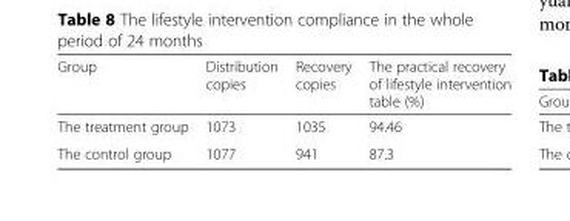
<table><thead><tr><td>Group</td><td>Distribution copies</td><td>Recovery copies</td><td>The practical recovery of lifestyle intervention table (%)</td></tr></thead><tbody><tr><td>The treatment group</td><td>1073</td><td>1035</td><td>94.46</td></tr><tr><td>The control group</td><td>1077</td><td>941</td><td>87.3</td></tr></tbody></table>